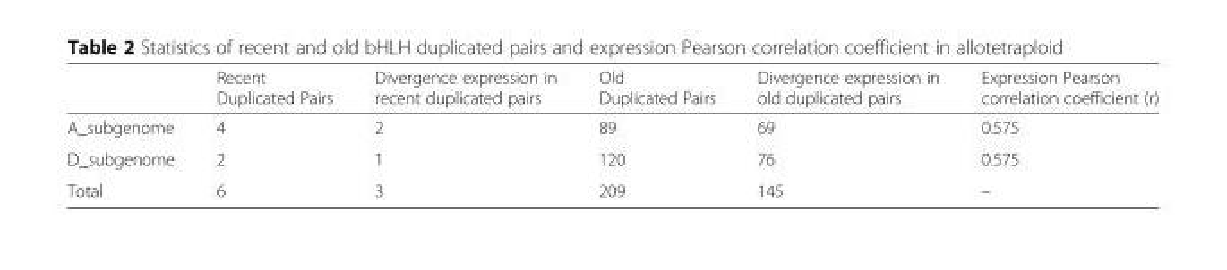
<table><thead><tr><td></td><td>Recent Duplicated Pairs</td><td>Divergence expression in recent duplicated pairs</td><td>Old Duplicated Pairs</td><td>Divergence expression in old duplicated pairs</td><td>Expression Pearson correlation coefficient (r)</td></tr></thead><tbody><tr><td>A_subgenome</td><td>4</td><td>2</td><td>89</td><td>69</td><td>0.575</td></tr><tr><td>D_subgenome</td><td>2</td><td>1</td><td>120</td><td>76</td><td>0.575</td></tr><tr><td>Total</td><td>6</td><td>3</td><td>209</td><td>145</td><td>–</td></tr></tbody></table>